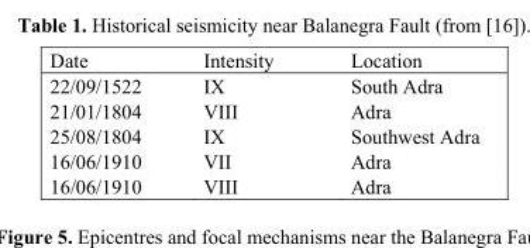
<table><thead><tr><td>Date</td><td>Intensity</td><td>Location</td></tr></thead><tbody><tr><td>22/09/1522</td><td>IX</td><td>South Adra</td></tr><tr><td>21/01/1804</td><td>VIII</td><td>Adra</td></tr><tr><td>25/08/1804</td><td>IX</td><td>Southwest Adra</td></tr><tr><td>16/06/1910</td><td>VII</td><td>Adra</td></tr><tr><td>16/06/1910</td><td>VIII</td><td>Adra</td></tr></tbody></table>